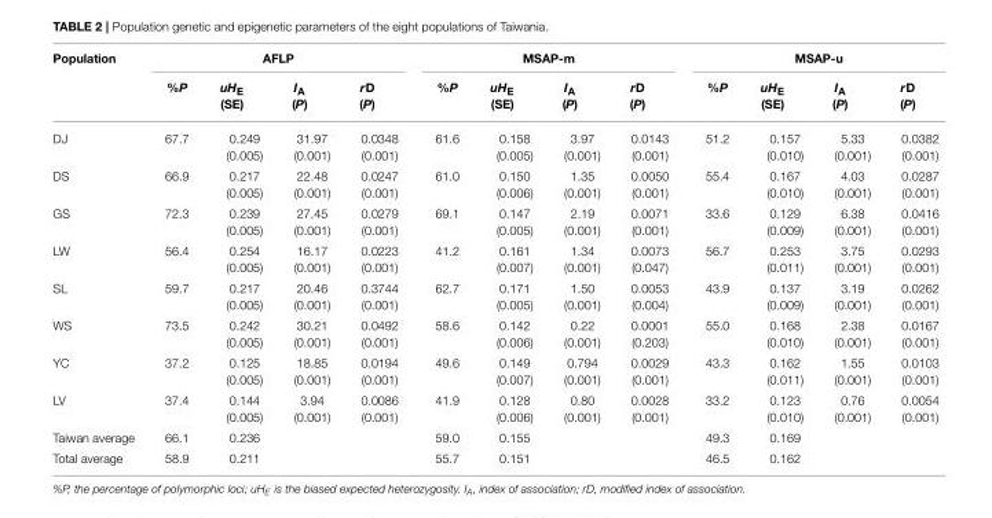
<table><thead><tr><td rowspan="2">Population</td><td colspan="4">AFLP</td><td colspan="4">MSAP-m</td><td colspan="4">MSAP-u</td></tr><tr><td>%P</td><td>uH<sub>E</sub> (SE)</td><td>I<sub>A</sub> (P)</td><td>rD (P)</td><td>%P</td><td>uH<sub>E</sub> (SE)</td><td>I<sub>A</sub> (P)</td><td>rD (P)</td><td>%P</td><td>uH<sub>E</sub> (SE)</td><td>I<sub>A</sub> (P)</td><td>rD (P)</td></tr></thead><tbody><tr><td>DJ</td><td>67.7</td><td>0.249 (0.005)</td><td>31.97 (0.001)</td><td>0.0348 (0.001)</td><td>61.6</td><td>0.158 (0.005)</td><td>3.97 (0.001)</td><td>0.0143 (0.001)</td><td>51.2</td><td>0.157 (0.010)</td><td>5.33 (0.001)</td><td>0.0382 (0.001)</td></tr><tr><td>DS</td><td>66.9</td><td>0.217 (0.005)</td><td>22.48 (0.001)</td><td>0.0247 (0.001)</td><td>61.0</td><td>0.150 (0.006)</td><td>1.35 (0.001)</td><td>0.0050 (0.001)</td><td>55.4</td><td>0.167 (0.010)</td><td>4.03 (0.001)</td><td>0.0287 (0.001)</td></tr><tr><td>GS</td><td>72.3</td><td>0.239 (0.005)</td><td>27.45 (0.001)</td><td>0.0279 (0.001)</td><td>69.1</td><td>0.147 (0.005)</td><td>2.19 (0.001)</td><td>0.0071 (0.001)</td><td>33.6</td><td>0.129 (0.009)</td><td>6.38 (0.001)</td><td>0.0416 (0.001)</td></tr><tr><td>LW</td><td>56.4</td><td>0.254 (0.005)</td><td>16.17 (0.001)</td><td>0.0223 (0.001)</td><td>41.2</td><td>0.161 (0.007)</td><td>1.34 (0.001)</td><td>0.0073 (0.047)</td><td>56.7</td><td>0.253 (0.011)</td><td>3.75 (0.001)</td><td>0.0293 (0.001)</td></tr><tr><td>SL</td><td>59.7</td><td>0.217 (0.005)</td><td>20.46 (0.001)</td><td>0.3744 (0.001)</td><td>62.7</td><td>0.171 (0.005)</td><td>1.50 (0.001)</td><td>0.0053 (0.004)</td><td>43.9</td><td>0.137 (0.009)</td><td>3.19 (0.001)</td><td>0.0262 (0.001)</td></tr><tr><td>WS</td><td>73.5</td><td>0.242 (0.005)</td><td>30.21 (0.001)</td><td>0.0492 (0.001)</td><td>58.6</td><td>0.142 (0.006)</td><td>0.22 (0.001)</td><td>0.0001 (0.203)</td><td>55.0</td><td>0.168 (0.010)</td><td>2.38 (0.001)</td><td>0.0167 (0.001)</td></tr><tr><td>YC</td><td>37.2</td><td>0.125 (0.005)</td><td>18.85 (0.001)</td><td>0.0194 (0.001)</td><td>49.6</td><td>0.149 (0.007)</td><td>0.794 (0.001)</td><td>0.0029 (0.001)</td><td>43.3</td><td>0.162 (0.011)</td><td>1.55 (0.001)</td><td>0.0103 (0.001)</td></tr><tr><td>LV</td><td>37.4</td><td>0.144 (0.005)</td><td>3.94 (0.001)</td><td>0.0086 (0.001)</td><td>41.9</td><td>0.128 (0.006)</td><td>0.80 (0.001)</td><td>0.0028 (0.001)</td><td>33.2</td><td>0.123 (0.010)</td><td>0.76 (0.001)</td><td>0.0054 (0.001)</td></tr><tr><td>Taiwan average</td><td>66.1</td><td>0.236</td><td></td><td></td><td>59.0</td><td>0.155</td><td></td><td></td><td>49.3</td><td>0.169</td><td></td><td></td></tr><tr><td>Total average</td><td>58.9</td><td>0.211</td><td></td><td></td><td>55.7</td><td>0.151</td><td></td><td></td><td>46.5</td><td>0.162</td><td></td><td></td></tr></tbody></table>